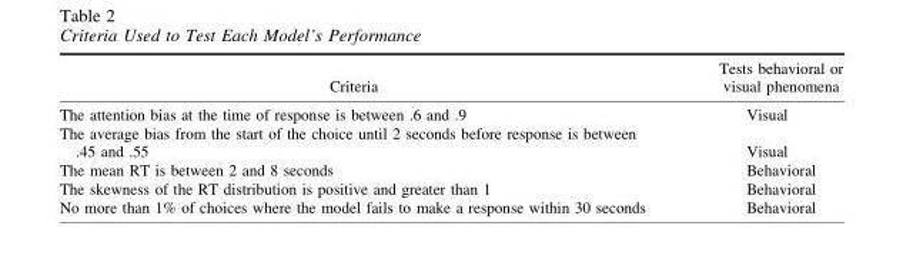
<table><thead><tr><td>Criteria</td><td>Tests behavioral or visual phenomena</td></tr></thead><tbody><tr><td>The attention bias at the time of response is between .6 and .9</td><td>Visual</td></tr><tr><td>The average bias from the start of the choice until 2 seconds before response is between .45 and .55</td><td>Visual</td></tr><tr><td>The mean RT is between 2 and 8 seconds</td><td>Behavioral</td></tr><tr><td>The skewness of the RT distribution is positive and greater than 1</td><td>Behavioral</td></tr><tr><td>No more than 1% of choices where the model fails to make a response within 30 seconds</td><td>Behavioral</td></tr></tbody></table>